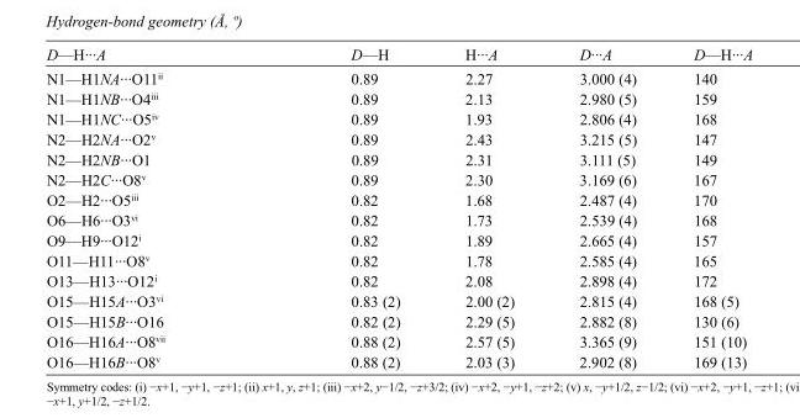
<table><tbody><tr><td>D—H···A</td><td>D—H</td><td>H···A</td><td>D···A</td><td>D—H···A</td></tr><tr><td>N1—H1NA···O11<sup>ii</sup></td><td>0.89</td><td>2.27</td><td>3.000 (4)</td><td>140</td></tr><tr><td>N1—H1NB···O4<sup>iii</sup></td><td>0.89</td><td>2.13</td><td>2.980 (5)</td><td>159</td></tr><tr><td>N1—H1NC···O5<sup>iv</sup></td><td>0.89</td><td>1.93</td><td>2.806 (4)</td><td>168</td></tr><tr><td>N2—H2NA···O2<sup>v</sup></td><td>0.89</td><td>2.43</td><td>3.215 (5)</td><td>147</td></tr><tr><td>N2—H2NB···O1</td><td>0.89</td><td>2.31</td><td>3.111 (5)</td><td>149</td></tr><tr><td>N2—H2C···O8<sup>v</sup></td><td>0.89</td><td>2.30</td><td>3.169 (6)</td><td>167</td></tr><tr><td>O2—H2···O5<sup>iii</sup></td><td>0.82</td><td>1.68</td><td>2.487 (4)</td><td>170</td></tr><tr><td>O6—H6···O3<sup>vi</sup></td><td>0.82</td><td>1.73</td><td>2.539 (4)</td><td>168</td></tr><tr><td>O9—H9···O12<sup>i</sup></td><td>0.82</td><td>1.89</td><td>2.665 (4)</td><td>157</td></tr><tr><td>O11—H11···O8<sup>v</sup></td><td>0.82</td><td>1.78</td><td>2.585 (4)</td><td>165</td></tr><tr><td>O13—H13···O12<sup>i</sup></td><td>0.82</td><td>2.08</td><td>2.898 (4)</td><td>172</td></tr><tr><td>O15—H15A···O3<sup>vi</sup></td><td>0.83 (2)</td><td>2.00 (2)</td><td>2.815 (4)</td><td>168 (5)</td></tr><tr><td>O15—H15B···O16</td><td>0.82 (2)</td><td>2.29 (5)</td><td>2.882 (8)</td><td>130 (6)</td></tr><tr><td>O16—H16A···O8<sup>vii</sup></td><td>0.88 (2)</td><td>2.57 (5)</td><td>3.365 (9)</td><td>151 (10)</td></tr><tr><td>O16—H16B···O8<sup>v</sup></td><td>0.88 (2)</td><td>2.03 (3)</td><td>2.902 (8)</td><td>169 (13)</td></tr></tbody></table>